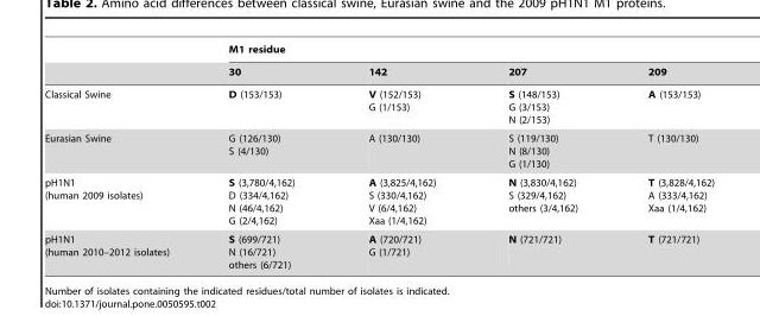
<table><thead><tr><td rowspan="2"></td><td colspan="4">M1 residue</td></tr><tr><td>30</td><td>142</td><td>207</td><td>209</td></tr></thead><tbody><tr><td>Classical Swine</td><td>D (153/153)</td><td>V (152/153) G (1/153)</td><td>S (148/153) G (3/153) N (2/153)</td><td>A (153/153)</td></tr><tr><td>Eurasian Swine</td><td>G (126/130) S (4/130)</td><td>A (130/130)</td><td>S (119/130) N (8/130) G (1/130)</td><td>T (130/130)</td></tr><tr><td>pH1N1 (human 2009 isolates)</td><td>S (3,780/4,162) D (334/4,162) N (46/4,162) G (2/4,162)</td><td>A (3,825/4,162) S (330/4,162) V (6/4,162) Xaa (1/4,162)</td><td>N (3,830/4,162) S (329/4,162) others (3/4,162)</td><td>T (3,828/4,162) A (333/4,162) Xaa (1/4,162)</td></tr><tr><td>pH1N1 (human 2010–2012 isolates)</td><td>S (699/721) N (16/721) others (6/721)</td><td>A (720/721) G (1/721)</td><td>N (721/721)</td><td>T (721/721)</td></tr></tbody></table>